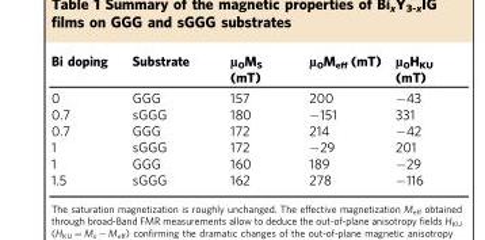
<table><thead><tr><td>Bi doping</td><td>Substrate</td><td>µ<sub>0</sub>M<sub>S</sub> (mT)</td><td>µ<sub>0</sub>M<sub>eff</sub> (mT)</td><td>µ<sub>0</sub>H<sub>KU</sub> (mT)</td></tr></thead><tbody><tr><td>0</td><td>GGG</td><td>157</td><td>200</td><td>−43</td></tr><tr><td>0.7</td><td>sGGG</td><td>180</td><td>−151</td><td>331</td></tr><tr><td>0.7</td><td>GGG</td><td>172</td><td>214</td><td>−42</td></tr><tr><td>1</td><td>sGGG</td><td>172</td><td>−29</td><td>201</td></tr><tr><td>1</td><td>GGG</td><td>160</td><td>189</td><td>−29</td></tr><tr><td>1.5</td><td>sGGG</td><td>162</td><td>278</td><td>−116</td></tr></tbody></table>